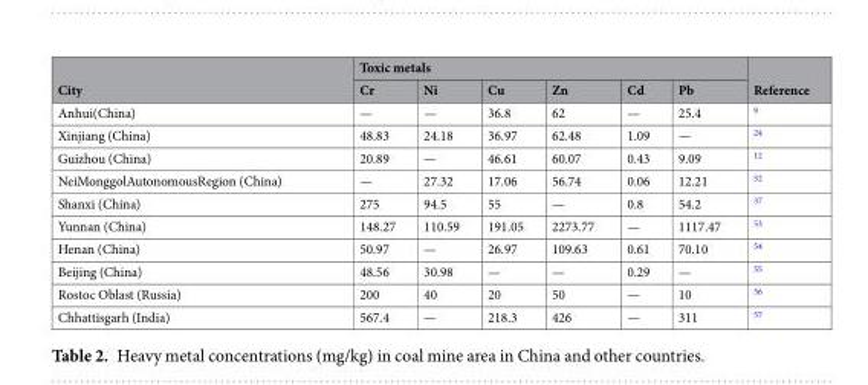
<table><thead><tr><td rowspan="2">City</td><td colspan="6">Toxic metals</td><td rowspan="2">Reference</td></tr><tr><td>Cr</td><td>Ni</td><td>Cu</td><td>Zn</td><td>Cd</td><td>Pb</td></tr></thead><tbody><tr><td>Anhui(China)</td><td>—</td><td>—</td><td>36.8</td><td>62</td><td>—</td><td>25.4</td><td><sup>9</sup></td></tr><tr><td>Xinjiang (China)</td><td>48.83</td><td>24.18</td><td>36.97</td><td>62.48</td><td>1.09</td><td>—</td><td><sup>24</sup></td></tr><tr><td>Guizhou (China)</td><td>20.89</td><td>—</td><td>46.61</td><td>60.07</td><td>0.43</td><td>9.09</td><td><sup>12</sup></td></tr><tr><td>NeiMonggolAutonomousRegion (China)</td><td>—</td><td>27.32</td><td>17.06</td><td>56.74</td><td>0.06</td><td>12.21</td><td><sup>52</sup></td></tr><tr><td>Shanxi (China)</td><td>275</td><td>94.5</td><td>55</td><td>—</td><td>0.8</td><td>54.2</td><td><sup>37</sup></td></tr><tr><td>Yunnan (China)</td><td>148.27</td><td>110.59</td><td>191.05</td><td>2273.77</td><td>—</td><td>1117.47</td><td><sup>53</sup></td></tr><tr><td>Henan (China)</td><td>50.97</td><td>—</td><td>26.97</td><td>109.63</td><td>0.61</td><td>70.10</td><td><sup>54</sup></td></tr><tr><td>Beijing (China)</td><td>48.56</td><td>30.98</td><td>—</td><td>—</td><td>0.29</td><td>—</td><td><sup>55</sup></td></tr><tr><td>Rostoc Oblast (Russia)</td><td>200</td><td>40</td><td>20</td><td>50</td><td>—</td><td>10</td><td><sup>56</sup></td></tr><tr><td>Chhattisgarh (India)</td><td>567.4</td><td>—</td><td>218.3</td><td>426</td><td>—</td><td>311</td><td><sup>57</sup></td></tr></tbody></table>